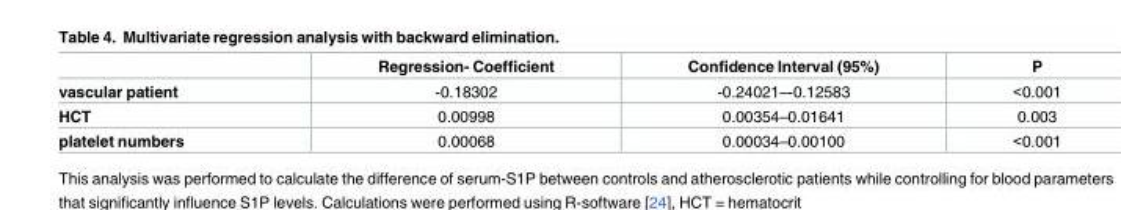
<table><thead><tr><td></td><td>Regression- Coefficient</td><td>Confidence Interval (95%)</td><td>P</td></tr></thead><tbody><tr><td>vascular patient</td><td>-0.18302</td><td>-0.24021–-0.12583</td><td>&lt;0.001</td></tr><tr><td>HCT</td><td>0.00998</td><td>0.00354–0.01641</td><td>0.003</td></tr><tr><td>platelet numbers</td><td>0.00068</td><td>0.00034–0.00100</td><td>&lt;0.001</td></tr></tbody></table>